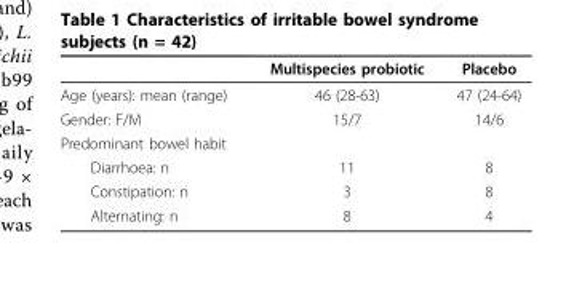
<table><thead><tr><td></td><td>Multispecies probiotic</td><td>Placebo</td></tr></thead><tbody><tr><td>Age (years): mean (range)</td><td>46 (28-63)</td><td>47 (24-64)</td></tr><tr><td>Gender: F/M</td><td>15/7</td><td>14/6</td></tr><tr><td colspan="3">Predominant bowel habit</td></tr><tr><td>Diarrhoea: n</td><td>11</td><td>8</td></tr><tr><td>Constipation: n</td><td>3</td><td>8</td></tr><tr><td>Alternating: n</td><td>8</td><td>4</td></tr></tbody></table>